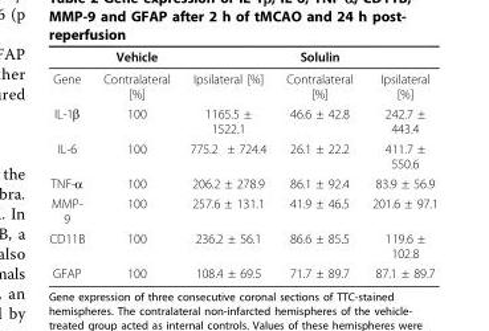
<table><thead><tr><td></td><td>Vehicle</td><td></td><td>Solulin</td><td></td></tr></thead><tbody><tr><td>Gene</td><td>Contralateral [%]</td><td>Ipsilateral [%]</td><td>Contralateral [%]</td><td>Ipsilateral [%]</td></tr><tr><td>IL-1β</td><td>100</td><td>1165.5 ± 1522.1</td><td>46.6 ± 42.8</td><td>242.7 ± 443.4</td></tr><tr><td>IL-6</td><td>100</td><td>775.2 ± 724.4</td><td>26.1 ± 22.2</td><td>411.7 ± 550.6</td></tr><tr><td>TNF-α</td><td>100</td><td>206.2 ± 278.9</td><td>86.1 ± 92.4</td><td>83.9 ± 56.9</td></tr><tr><td>MMP- 9</td><td>100</td><td>257.6 ± 131.1</td><td>41.9 ± 46.5</td><td>201.6 ± 97.1</td></tr><tr><td>CD11B</td><td>100</td><td>236.2 ± 56.1</td><td>86.6 ± 85.5</td><td>119.6 ± 102.8</td></tr><tr><td>GFAP</td><td>100</td><td>108.4 ± 69.5</td><td>71.7 ± 89.7</td><td>87.1 ± 89.7</td></tr></tbody></table>